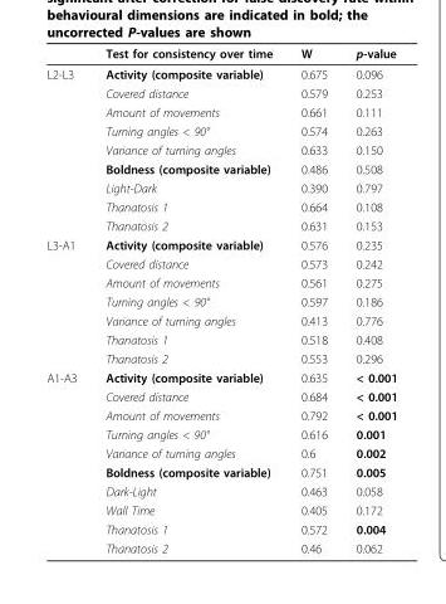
<table><thead><tr><td></td><td>Test for consistency over time</td><td>W</td><td>p-value</td></tr></thead><tbody><tr><td rowspan="9">L2-L3</td><td>Activity (composite variable)</td><td>0.675</td><td>0.096</td></tr><tr><td>Covered distance</td><td>0.579</td><td>0.253</td></tr><tr><td>Amount of movements</td><td>0.661</td><td>0.111</td></tr><tr><td>Turning angles &lt; 90°</td><td>0.574</td><td>0.263</td></tr><tr><td>Variance of turning angles</td><td>0.633</td><td>0.150</td></tr><tr><td>Boldness (composite variable)</td><td>0.486</td><td>0.508</td></tr><tr><td>Light-Dark</td><td>0.390</td><td>0.797</td></tr><tr><td>Thanatosis 1</td><td>0.664</td><td>0.108</td></tr><tr><td>Thanatosis 2</td><td>0.631</td><td>0.153</td></tr><tr><td rowspan="7">L3-A1</td><td>Activity (composite variable)</td><td>0.576</td><td>0.235</td></tr><tr><td>Covered distance</td><td>0.573</td><td>0.242</td></tr><tr><td>Amount of movements</td><td>0.561</td><td>0.275</td></tr><tr><td>Turning angles &lt; 90°</td><td>0.597</td><td>0.186</td></tr><tr><td>Variance of turning angles</td><td>0.413</td><td>0.776</td></tr><tr><td>Thanatosis 1</td><td>0.518</td><td>0.408</td></tr><tr><td>Thanatosis 2</td><td>0.553</td><td>0.296</td></tr><tr><td rowspan="10">A1-A3</td><td>Activity (composite variable)</td><td>0.635</td><td>&lt; 0.001</td></tr><tr><td>Covered distance</td><td>0.684</td><td>&lt; 0.001</td></tr><tr><td>Amount of movements</td><td>0.792</td><td>&lt; 0.001</td></tr><tr><td>Turning angles &lt; 90°</td><td>0.616</td><td>0.001</td></tr><tr><td>Variance of turning angles</td><td>0.6</td><td>0.002</td></tr><tr><td>Boldness (composite variable)</td><td>0.751</td><td>0.005</td></tr><tr><td>Dark-Light</td><td>0.463</td><td>0.058</td></tr><tr><td>Wall Time</td><td>0.405</td><td>0.172</td></tr><tr><td>Thanatosis 1</td><td>0.572</td><td>0.004</td></tr><tr><td>Thanatosis 2</td><td>0.46</td><td>0.062</td></tr></tbody></table>